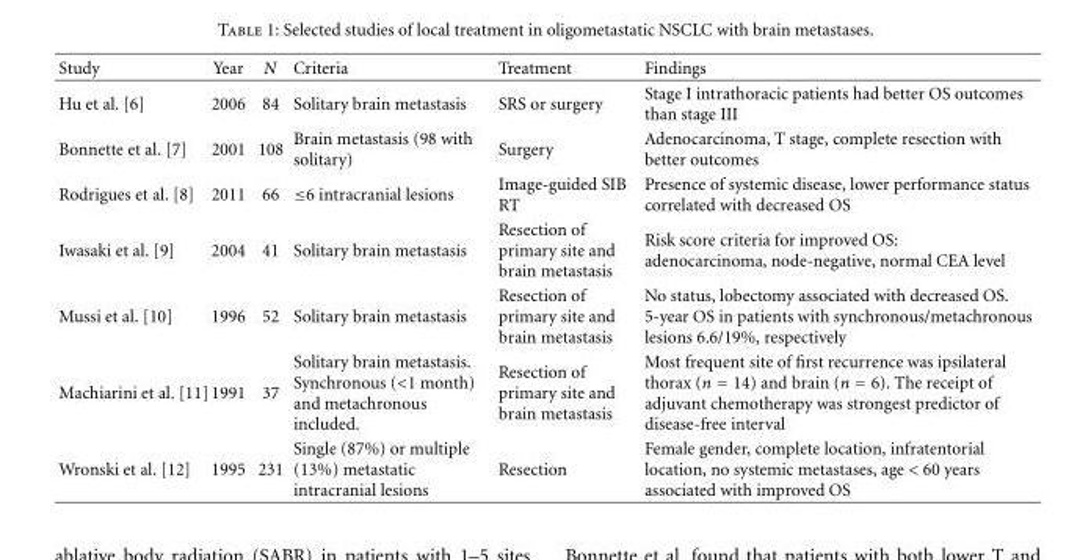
<table><thead><tr><td>Study</td><td>Year</td><td>N</td><td>Criteria</td><td>Treatment</td><td>Findings</td></tr></thead><tbody><tr><td>Hu et al. [6]</td><td>2006</td><td>84</td><td>Solitary brain metastasis</td><td>SRS or surgery</td><td>Stage I intrathoracic patients had better OS outcomes than stage III</td></tr><tr><td>Bonnette et al. [7]</td><td>2001</td><td>108</td><td>Brain metastasis (98 with solitary)</td><td>Surgery</td><td>Adenocarcinoma, T stage, complete resection with better outcomes</td></tr><tr><td>Rodrigues et al. [8]</td><td>2011</td><td>66</td><td>≤6 intracranial lesions</td><td>Image-guided SIB RT</td><td>Presence of systemic disease, lower performance status correlated with decreased OS</td></tr><tr><td>Iwasaki et al. [9]</td><td>2004</td><td>41</td><td>Solitary brain metastasis</td><td>Resection of primary site and brain metastasis</td><td>Risk score criteria for improved OS: adenocarcinoma, node-negative, normal CEA level</td></tr><tr><td>Mussi et al. [10]</td><td>1996</td><td>52</td><td>Solitary brain metastasis</td><td>Resection of primary site and brain metastasis</td><td>No status, lobectomy associated with decreased OS. 5-year OS in patients with synchronous/metachronous lesions 6.6/19%, respectively</td></tr><tr><td>Machiarini et al. [11]</td><td>1991</td><td>37</td><td>Solitary brain metastasis. Synchronous (&lt;1 month) and metachronous included.</td><td>Resection of primary site and brain metastasis</td><td>Most frequent site of first recurrence was ipsilateral thorax (n = 14) and brain (n = 6). The receipt of adjuvant chemotherapy was strongest predictor of disease-free interval</td></tr><tr><td>Wronski et al. [12]</td><td>1995</td><td>231</td><td>Single (87%) or multiple (13%) metastatic intracranial lesions</td><td>Resection</td><td>Female gender, complete location, infratentorial location, no systemic metastases, age &lt; 60 years associated with improved OS</td></tr></tbody></table>